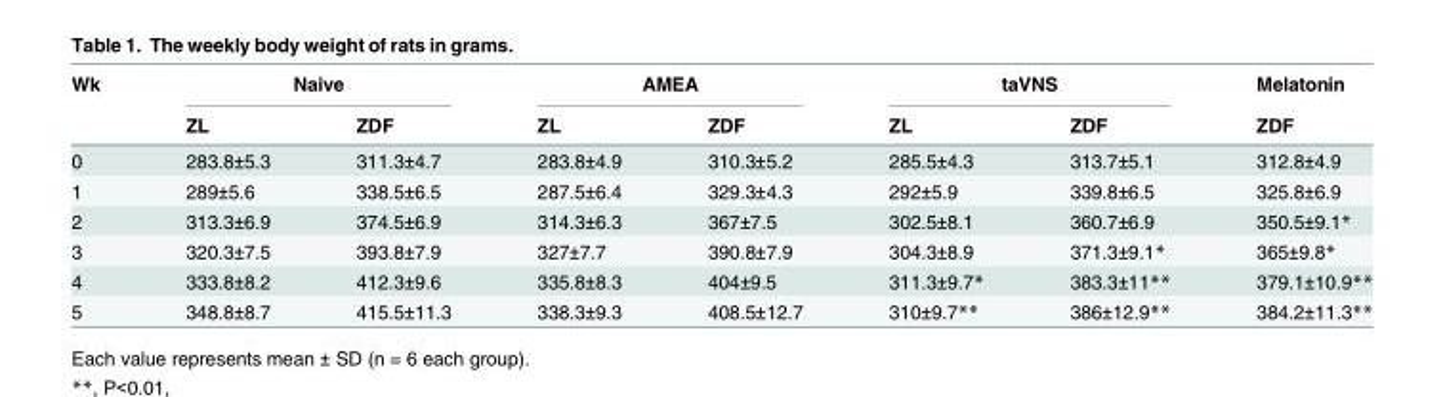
<table><thead><tr><td rowspan="2">Wk</td><td colspan="2">Naive</td><td colspan="2">AMEA</td><td colspan="2">taVNS</td><td rowspan="2">Melatonin ZDF</td></tr><tr><td>ZL</td><td>ZDF</td><td>ZL</td><td>ZDF</td><td>ZL</td><td>ZDF</td></tr></thead><tbody><tr><td>0</td><td>283.8±5.3</td><td>311.3±4.7</td><td>283.8±4.9</td><td>310.3±5.2</td><td>285.5±4.3</td><td>313.7±5.1</td><td>312.8±4.9</td></tr><tr><td>1</td><td>289±5.6</td><td>338.5±6.5</td><td>287.5±6.4</td><td>329.3±4.3</td><td>292±5.9</td><td>339.8±6.5</td><td>325.8±6.9</td></tr><tr><td>2</td><td>313.3±6.9</td><td>374.5±6.9</td><td>314.3±6.3</td><td>367±7.5</td><td>302.5±8.1</td><td>360.7±6.9</td><td>350.5±9.1*</td></tr><tr><td>3</td><td>320.3±7.5</td><td>393.8±7.9</td><td>327±7.7</td><td>390.8±7.9</td><td>304.3±8.9</td><td>371.3±9.1*</td><td>365±9.8*</td></tr><tr><td>4</td><td>333.8±8.2</td><td>412.3±9.6</td><td>335.8±8.3</td><td>404±9.5</td><td>311.3±9.7*</td><td>383.3±11**</td><td>379.1±10.9**</td></tr><tr><td>5</td><td>348.8±8.7</td><td>415.5±11.3</td><td>338.3±9.3</td><td>408.5±12.7</td><td>310±9.7**</td><td>386±12.9**</td><td>384.2±11.3**</td></tr></tbody></table>